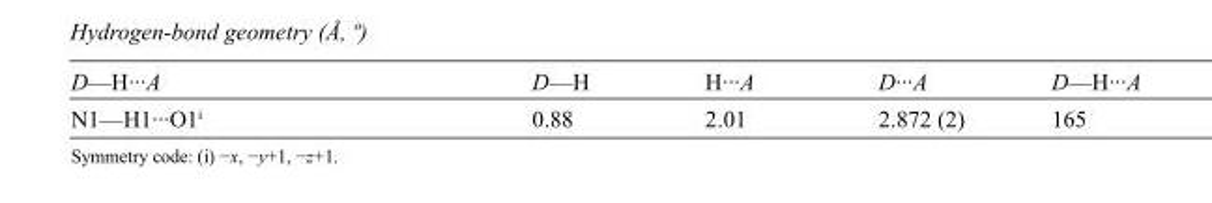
<table><tbody><tr><td>D—H···A</td><td>D—H</td><td>H···A</td><td>D···A</td><td>D—H···A</td></tr><tr><td>N1—H1···O1<sup>i</sup></td><td>0.88</td><td>2.01</td><td>2.872 (2)</td><td>165</td></tr></tbody></table>